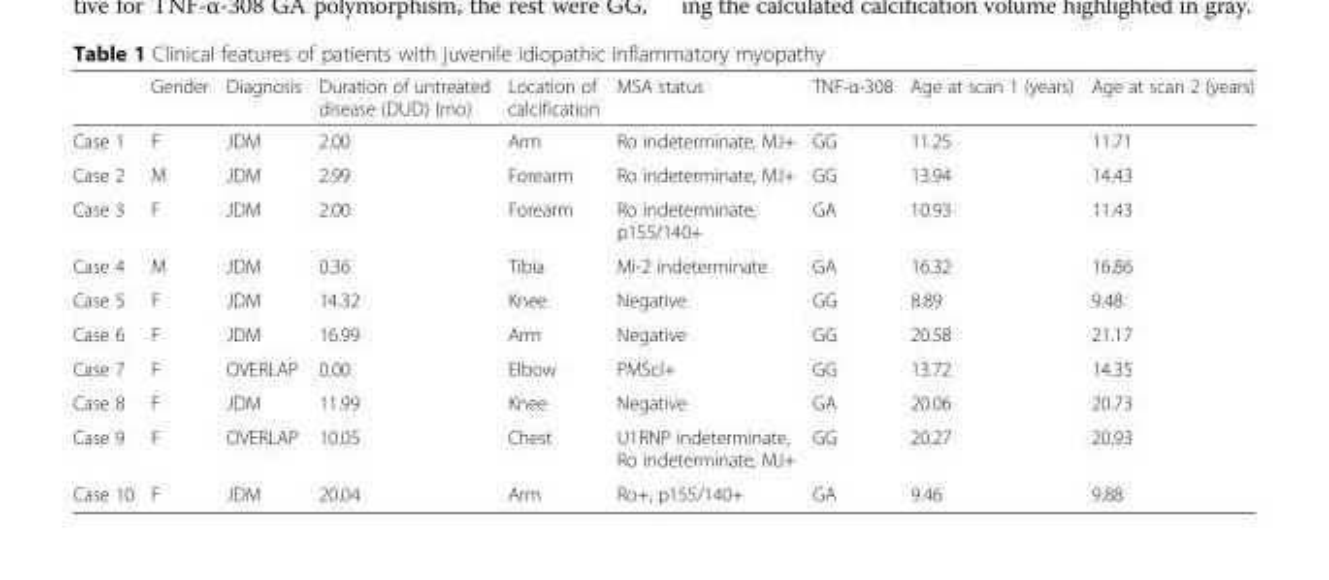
<table><thead><tr><td></td><td>Gender</td><td>Diagnosis</td><td>Duration of untreated disease (DUD) (mo)</td><td>Location of calcification</td><td>MSA status</td><td>TNF-α-308</td><td>Age at scan 1 (years)</td><td>Age at scan 2 (years)</td></tr></thead><tbody><tr><td>Case 1</td><td>F</td><td>JDM</td><td>2.00</td><td>Arm</td><td>Ro indeterminate, MJ+</td><td>GG</td><td>11.25</td><td>11.71</td></tr><tr><td>Case 2</td><td>M</td><td>JDM</td><td>2.99</td><td>Forearm</td><td>Ro indeterminate, MJ+</td><td>GG</td><td>13.94</td><td>14.43</td></tr><tr><td>Case 3</td><td>F</td><td>JDM</td><td>2.00</td><td>Forearm</td><td>Ro indeterminate, p155/140+</td><td>GA</td><td>10.93</td><td>11.43</td></tr><tr><td>Case 4</td><td>M</td><td>JDM</td><td>0.36</td><td>Tibia</td><td>Mi-2 indeterminate</td><td>GA</td><td>16.32</td><td>16.86</td></tr><tr><td>Case 5</td><td>F</td><td>JDM</td><td>14.32</td><td>Knee</td><td>Negative</td><td>GG</td><td>8.89</td><td>9.48</td></tr><tr><td>Case 6</td><td>F</td><td>JDM</td><td>16.99</td><td>Arm</td><td>Negative</td><td>GG</td><td>20.58</td><td>21.17</td></tr><tr><td>Case 7</td><td>F</td><td>OVERLAP</td><td>0.00</td><td>Elbow</td><td>PMScl+</td><td>GG</td><td>13.72</td><td>14.35</td></tr><tr><td>Case 8</td><td>F</td><td>JDM</td><td>11.99</td><td>Knee</td><td>Negative</td><td>GA</td><td>20.06</td><td>20.73</td></tr><tr><td>Case 9</td><td>F</td><td>OVERLAP</td><td>10.05</td><td>Chest</td><td>U1RNP indeterminate, Ro indeterminate, MJ+</td><td>GG</td><td>20.27</td><td>20.93</td></tr><tr><td>Case 10</td><td>F</td><td>JDM</td><td>20.04</td><td>Arm</td><td>Ro+, p155/140+</td><td>GA</td><td>9.46</td><td>9.88</td></tr></tbody></table>